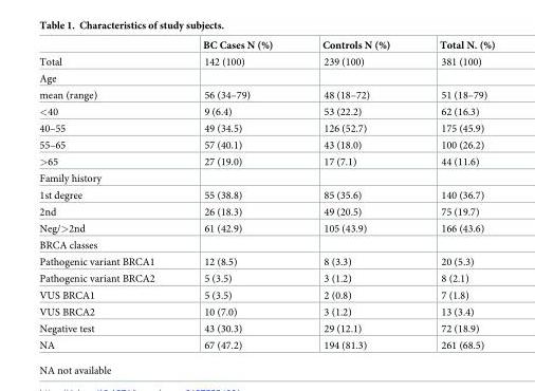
<table><thead><tr><td></td><td>BC Cases N (%)</td><td>Controls N (%)</td><td>Total N. (%)</td></tr></thead><tbody><tr><td>Total</td><td>142 (100)</td><td>239 (100)</td><td>381 (100)</td></tr><tr><td colspan="4">Age</td></tr><tr><td>mean (range)</td><td>56 (34–79)</td><td>48 (18–72)</td><td>51 (18–79)</td></tr><tr><td>&lt;40</td><td>9 (6.4)</td><td>53 (22.2)</td><td>62 (16.3)</td></tr><tr><td>40–55</td><td>49 (34.5)</td><td>126 (52.7)</td><td>175 (45.9)</td></tr><tr><td>55–65</td><td>57 (40.1)</td><td>43 (18.0)</td><td>100 (26.2)</td></tr><tr><td>&gt;65</td><td>27 (19.0)</td><td>17 (7.1)</td><td>44 (11.6)</td></tr><tr><td colspan="4">Family history</td></tr><tr><td>1st degree</td><td>55 (38.8)</td><td>85 (35.6)</td><td>140 (36.7)</td></tr><tr><td>2nd</td><td>26 (18.3)</td><td>49 (20.5)</td><td>75 (19.7)</td></tr><tr><td>Neg/&gt;2nd</td><td>61 (42.9)</td><td>105 (43.9)</td><td>166 (43.6)</td></tr><tr><td colspan="4">BRCA classes</td></tr><tr><td>Pathogenic variant BRCA1</td><td>12 (8.5)</td><td>8 (3.3)</td><td>20 (5.3)</td></tr><tr><td>Pathogenic variant BRCA2</td><td>5 (3.5)</td><td>3 (1.2)</td><td>8 (2.1)</td></tr><tr><td>VUS BRCA1</td><td>5 (3.5)</td><td>2 (0.8)</td><td>7 (1.8)</td></tr><tr><td>VUS BRCA2</td><td>10 (7.0)</td><td>3 (1.2)</td><td>13 (3.4)</td></tr><tr><td>Negative test</td><td>43 (30.3)</td><td>29 (12.1)</td><td>72 (18.9)</td></tr><tr><td>NA</td><td>67 (47.2)</td><td>194 (81.3)</td><td>261 (68.5)</td></tr></tbody></table>